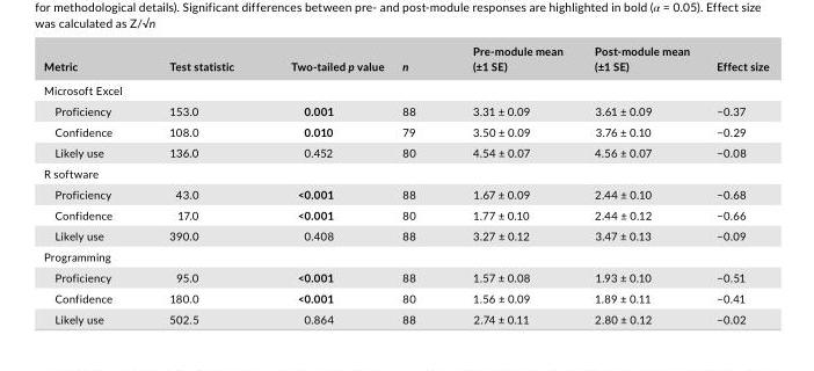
<table><thead><tr><td>Metric</td><td>Test statistic</td><td>Two- tailed p value</td><td>n</td><td>Pre-module mean (±1 SE)</td><td>Post-module mean (±1 SE)</td><td>Effect size</td></tr></thead><tbody><tr><td colspan="7">Microsoft Excel</td></tr><tr><td>Proficiency</td><td>153.0</td><td>0.001</td><td>88</td><td>3.31 ± 0.09</td><td>3.61 ± 0.09</td><td>−0.37</td></tr><tr><td>Confidence</td><td>108.0</td><td>0.010</td><td>79</td><td>3.50 ± 0.09</td><td>3.76 ± 0.10</td><td>−0.29</td></tr><tr><td>Likely use</td><td>136.0</td><td>0.452</td><td>80</td><td>4.54 ± 0.07</td><td>4.56 ± 0.07</td><td>−0.08</td></tr><tr><td colspan="7">R software</td></tr><tr><td>Proficiency</td><td>43.0</td><td>&lt;0.001</td><td>88</td><td>1.67 ± 0.09</td><td>2.44 ± 0.10</td><td>−0.68</td></tr><tr><td>Confidence</td><td>17.0</td><td>&lt;0.001</td><td>80</td><td>1.77 ± 0.10</td><td>2.44 ± 0.12</td><td>−0.66</td></tr><tr><td>Likely use</td><td>390.0</td><td>0.408</td><td>88</td><td>3.27 ± 0.12</td><td>3.47 ± 0.13</td><td>−0.09</td></tr><tr><td colspan="7">Programming</td></tr><tr><td>Proficiency</td><td>95.0</td><td>&lt;0.001</td><td>88</td><td>1.57 ± 0.08</td><td>1.93 ± 0.10</td><td>−0.51</td></tr><tr><td>Confidence</td><td>180.0</td><td>&lt;0.001</td><td>80</td><td>1.56 ± 0.09</td><td>1.89 ± 0.11</td><td>−0.41</td></tr><tr><td>Likely use</td><td>502.5</td><td>0.864</td><td>88</td><td>2.74 ± 0.11</td><td>2.80 ± 0.12</td><td>−0.02</td></tr></tbody></table>